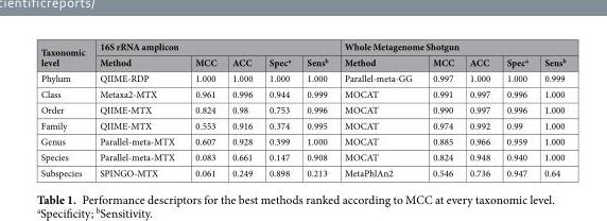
<table><thead><tr><td rowspan="2">Taxonomic level</td><td colspan="5">16S rRNA amplicon</td><td colspan="5">Whole Metagenome Shotgun</td></tr><tr><td>Method</td><td>MCC</td><td>ACC</td><td>Spec<sup>a</sup></td><td>Sens<sup>b</sup></td><td>Method</td><td>MCC</td><td>ACC</td><td>Spec<sup>a</sup></td><td>Sens<sup>b</sup></td></tr></thead><tbody><tr><td>Phylum</td><td>QIIME-RDP</td><td>1.000</td><td>1.000</td><td>1.000</td><td>1.000</td><td>Parallel-meta-GG</td><td>0.997</td><td>1.000</td><td>1.000</td><td>0.999</td></tr><tr><td>Class</td><td>Metaxa2-MTX</td><td>0.961</td><td>0.996</td><td>0.944</td><td>0.999</td><td>MOCAT</td><td>0.991</td><td>0.997</td><td>0.996</td><td>1.000</td></tr><tr><td>Order</td><td>QIIME-MTX</td><td>0.824</td><td>0.98</td><td>0.753</td><td>0.996</td><td>MOCAT</td><td>0.990</td><td>0.997</td><td>0.996</td><td>1.000</td></tr><tr><td>Family</td><td>QIIME-MTX</td><td>0.553</td><td>0.916</td><td>0.374</td><td>0.995</td><td>MOCAT</td><td>0.974</td><td>0.992</td><td>0.99</td><td>1.000</td></tr><tr><td>Genus</td><td>Parallel-meta-MTX</td><td>0.607</td><td>0.928</td><td>0.399</td><td>1.000</td><td>MOCAT</td><td>0.885</td><td>0.966</td><td>0.959</td><td>1.000</td></tr><tr><td>Species</td><td>Parallel-meta-MTX</td><td>0.083</td><td>0.661</td><td>0.147</td><td>0.908</td><td>MOCAT</td><td>0.824</td><td>0.948</td><td>0.940</td><td>1.000</td></tr><tr><td>Subspecies</td><td>SPINGO-MTX</td><td>0.061</td><td>0.249</td><td>0.898</td><td>0.213</td><td>MetaPhlAn2</td><td>0.546</td><td>0.736</td><td>0.947</td><td>0.64</td></tr></tbody></table>